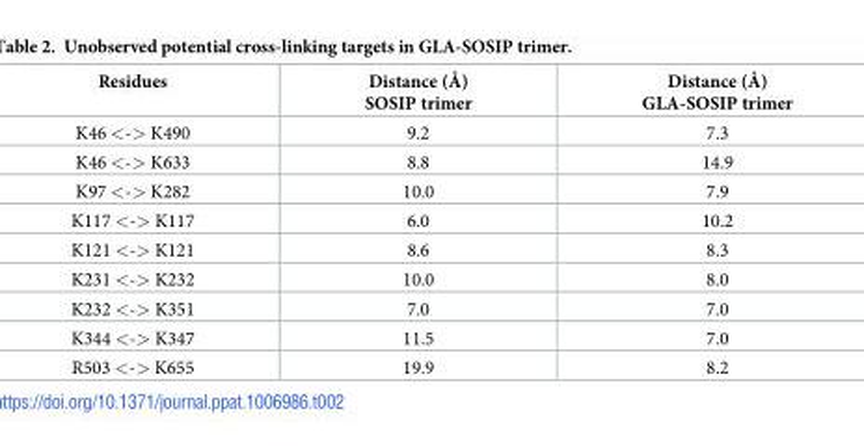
<table><thead><tr><td>Residues</td><td>Distance (Å) SOSIP trimer</td><td>Distance (Å) GLA-SOSIP trimer</td></tr></thead><tbody><tr><td>K46 &lt;-&gt; K490</td><td>9.2</td><td>7.3</td></tr><tr><td>K46 &lt;-&gt; K633</td><td>8.8</td><td>14.9</td></tr><tr><td>K97 &lt;-&gt; K282</td><td>10.0</td><td>7.9</td></tr><tr><td>K117 &lt;-&gt; K117</td><td>6.0</td><td>10.2</td></tr><tr><td>K121 &lt;-&gt; K121</td><td>8.6</td><td>8.3</td></tr><tr><td>K231 &lt;-&gt; K232</td><td>10.0</td><td>8.0</td></tr><tr><td>K232 &lt;-&gt; K351</td><td>7.0</td><td>7.0</td></tr><tr><td>K344 &lt;-&gt; K347</td><td>11.5</td><td>7.0</td></tr><tr><td>R503 &lt;-&gt; K655</td><td>19.9</td><td>8.2</td></tr></tbody></table>